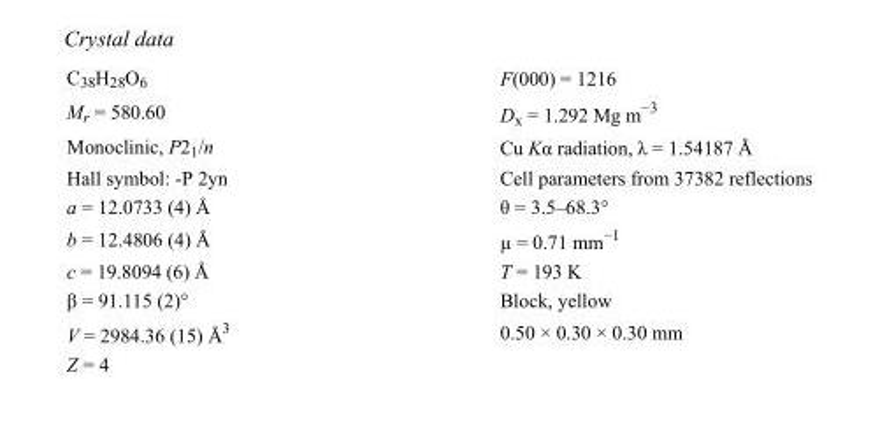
<table><tbody><tr><td>C<sub>38</sub>H<sub>28</sub>O<sub>6</sub></td><td>F(000) = 1216</td></tr><tr><td>M<sub>r</sub> = 580.60</td><td>D<sub>x</sub> = 1.292 Mg m<sup>−3</sup></td></tr><tr><td>Monoclinic, P2<sub>1</sub>/n</td><td>Cu Kα radiation, λ = 1.54187 Å</td></tr><tr><td>Hall symbol: -P 2yn</td><td>Cell parameters from 37382 reflections</td></tr><tr><td>a = 12.0733 (4) Å</td><td>θ = 3.5–68.3°</td></tr><tr><td>b = 12.4806 (4) Å</td><td>µ = 0.71 mm<sup>−1</sup></td></tr><tr><td>c = 19.8094 (6) Å</td><td>T = 193 K</td></tr><tr><td>β = 91.115 (2)°</td><td>Block, yellow</td></tr><tr><td>V = 2984.36 (15) Å<sup>3</sup></td><td>0.50 × 0.30 × 0.30 mm</td></tr><tr><td>Z = 4</td><td></td></tr></tbody></table>